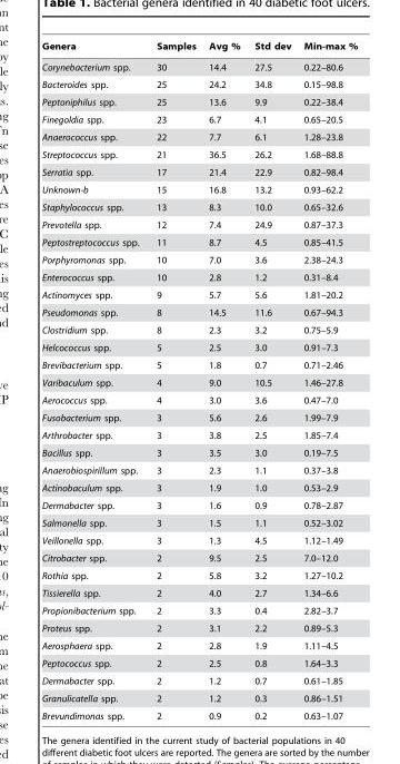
<table><thead><tr><td>Genera</td><td>Samples</td><td>Avg %</td><td>Std dev</td><td>Min-max %</td></tr></thead><tbody><tr><td>Corynebacterium spp.</td><td>30</td><td>14.4</td><td>27.5</td><td>0.22–80.6</td></tr><tr><td>Bacteroides spp.</td><td>25</td><td>24.2</td><td>34.8</td><td>0.15–98.8</td></tr><tr><td>Peptoniphilus spp.</td><td>25</td><td>13.6</td><td>9.9</td><td>0.22–38.4</td></tr><tr><td>Finegoldia spp.</td><td>23</td><td>6.7</td><td>4.1</td><td>0.65–20.5</td></tr><tr><td>Anaerococcus spp.</td><td>22</td><td>7.7</td><td>6.1</td><td>1.28–23.8</td></tr><tr><td>Streptococcus spp.</td><td>21</td><td>36.5</td><td>26.2</td><td>1.68–88.8</td></tr><tr><td>Serratia spp.</td><td>17</td><td>21.4</td><td>22.9</td><td>0.82–98.4</td></tr><tr><td>Unknown-b</td><td>15</td><td>16.8</td><td>13.2</td><td>0.93–62.2</td></tr><tr><td>Staphylococcus spp.</td><td>13</td><td>8.3</td><td>10.0</td><td>0.65–32.6</td></tr><tr><td>Prevotella spp.</td><td>12</td><td>7.4</td><td>24.9</td><td>0.87–37.3</td></tr><tr><td>Peptostreptococcus spp.</td><td>11</td><td>8.7</td><td>4.5</td><td>0.85–41.5</td></tr><tr><td>Porphyromonas spp.</td><td>10</td><td>7.0</td><td>3.6</td><td>2.38–24.3</td></tr><tr><td>Enterococcus spp.</td><td>10</td><td>2.8</td><td>1.2</td><td>0.31–8.4</td></tr><tr><td>Actinomyces spp.</td><td>9</td><td>5.7</td><td>5.6</td><td>1.81–20.2</td></tr><tr><td>Pseudomonas spp.</td><td>8</td><td>14.5</td><td>11.6</td><td>0.67–94.3</td></tr><tr><td>Clostridium spp.</td><td>8</td><td>2.3</td><td>3.2</td><td>0.75–5.9</td></tr><tr><td>Helcococcus spp.</td><td>5</td><td>2.5</td><td>3.0</td><td>0.91–7.3</td></tr><tr><td>Brevibacterium spp.</td><td>5</td><td>1.8</td><td>0.7</td><td>0.71–2.46</td></tr><tr><td>Varibaculum spp.</td><td>4</td><td>9.0</td><td>10.5</td><td>1.46–27.8</td></tr><tr><td>Aerococcus spp.</td><td>4</td><td>3.0</td><td>3.6</td><td>0.47–7.0</td></tr><tr><td>Fusobacterium spp.</td><td>3</td><td>5.6</td><td>2.6</td><td>1.99–7.9</td></tr><tr><td>Arthrobacter spp.</td><td>3</td><td>3.8</td><td>2.5</td><td>1.85–7.4</td></tr><tr><td>Bacillus spp.</td><td>3</td><td>3.5</td><td>3.0</td><td>0.19–7.5</td></tr><tr><td>Anaerobiospirillum spp.</td><td>3</td><td>2.3</td><td>1.1</td><td>0.37–3.8</td></tr><tr><td>Actinobaculum spp.</td><td>3</td><td>1.9</td><td>1.0</td><td>0.53–2.9</td></tr><tr><td>Dermabacter spp.</td><td>3</td><td>1.6</td><td>0.9</td><td>0.78–2.87</td></tr><tr><td>Salmonella spp.</td><td>3</td><td>1.5</td><td>1.1</td><td>0.52–3.02</td></tr><tr><td>Veillonella spp.</td><td>3</td><td>1.3</td><td>4.5</td><td>1.12–1.49</td></tr><tr><td>Citrobacter spp.</td><td>2</td><td>9.5</td><td>2.5</td><td>7.0–12.0</td></tr><tr><td>Rothia spp.</td><td>2</td><td>5.8</td><td>3.2</td><td>1.27–10.2</td></tr><tr><td>Tissierella spp.</td><td>2</td><td>4.0</td><td>2.7</td><td>1.34–6.6</td></tr><tr><td>Propionibacterium spp.</td><td>2</td><td>3.3</td><td>0.4</td><td>2.82–3.7</td></tr><tr><td>Proteus spp.</td><td>2</td><td>3.1</td><td>2.2</td><td>0.89–5.3</td></tr><tr><td>Aerosphaera spp.</td><td>2</td><td>2.8</td><td>1.9</td><td>1.11–4.5</td></tr><tr><td>Peptococcus spp.</td><td>2</td><td>2.5</td><td>0.8</td><td>1.64–3.3</td></tr><tr><td>Dermabacter spp.</td><td>2</td><td>1.2</td><td>0.7</td><td>0.61–1.85</td></tr><tr><td>Granulicatella spp.</td><td>2</td><td>1.2</td><td>0.3</td><td>0.86–1.51</td></tr><tr><td>Brevundimonas spp.</td><td>2</td><td>0.9</td><td>0.2</td><td>0.63–1.07</td></tr></tbody></table>